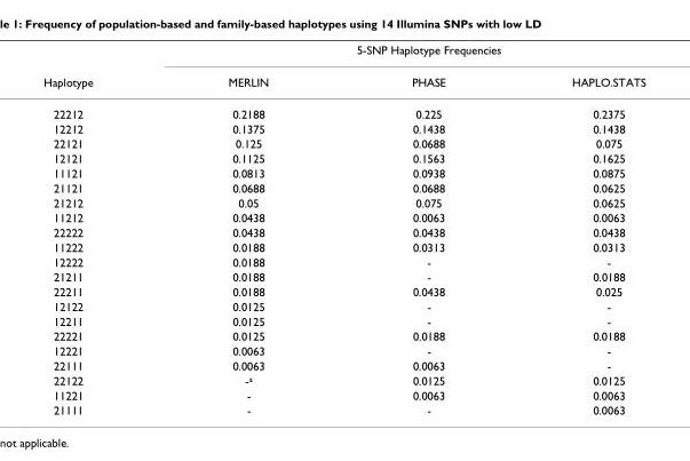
<table><thead><tr><td rowspan="2">Haplotype</td><td colspan="3">5-SNP Haplotype Frequencies</td></tr><tr><td>MERLIN</td><td>PHASE</td><td>HAPLO.STATS</td></tr></thead><tbody><tr><td>22212</td><td>0.2188</td><td>0.225</td><td>0.2375</td></tr><tr><td>12212</td><td>0.1375</td><td>0.1438</td><td>0.1438</td></tr><tr><td>22121</td><td>0.125</td><td>0.0688</td><td>0.075</td></tr><tr><td>12121</td><td>0.1125</td><td>0.1563</td><td>0.1625</td></tr><tr><td>11121</td><td>0.0813</td><td>0.0938</td><td>0.0875</td></tr><tr><td>21121</td><td>0.0688</td><td>0.0688</td><td>0.0625</td></tr><tr><td>21212</td><td>0.05</td><td>0.075</td><td>0.0625</td></tr><tr><td>11212</td><td>0.0438</td><td>0.0063</td><td>0.0063</td></tr><tr><td>22222</td><td>0.0438</td><td>0.0438</td><td>0.0438</td></tr><tr><td>11222</td><td>0.0188</td><td>0.0313</td><td>0.0313</td></tr><tr><td>12222</td><td>0.0188</td><td>-</td><td>-</td></tr><tr><td>21211</td><td>0.0188</td><td>-</td><td>0.0188</td></tr><tr><td>22211</td><td>0.0188</td><td>0.0438</td><td>0.025</td></tr><tr><td>12122</td><td>0.0125</td><td>-</td><td>-</td></tr><tr><td>12211</td><td>0.0125</td><td>-</td><td>-</td></tr><tr><td>22221</td><td>0.0125</td><td>0.0188</td><td>0.0188</td></tr><tr><td>12221</td><td>0.0063</td><td>-</td><td>-</td></tr><tr><td>22111</td><td>0.0063</td><td>0.0063</td><td>-</td></tr><tr><td>22122</td><td>-a</td><td>0.0125</td><td>0.0125</td></tr><tr><td>11221</td><td>-</td><td>0.0063</td><td>0.0063</td></tr><tr><td>21111</td><td>-</td><td>-</td><td>0.0063</td></tr></tbody></table>